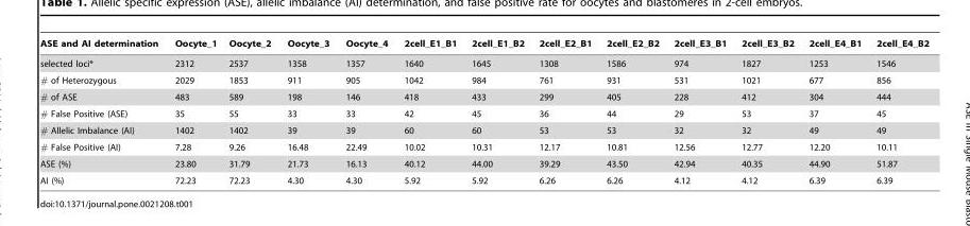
<table><thead><tr><td>ASE and AI determination</td><td>Oocyte_1</td><td>Oocyte_2</td><td>Oocyte_3</td><td>Oocyte_4</td><td>2cell_E1_B1</td><td>2cell_E1_B2</td><td>2cell_E2_B1</td><td>2cell_E2_B2</td><td>2cell_E3_B1</td><td>2cell_E3_B2</td><td>2cell_E4_B1</td><td>2cell_E4_B2</td></tr></thead><tbody><tr><td>selected loci*</td><td>2312</td><td>2537</td><td>1358</td><td>1357</td><td>1640</td><td>1645</td><td>1308</td><td>1586</td><td>974</td><td>1827</td><td>1253</td><td>1546</td></tr><tr><td># of Heterozygous</td><td>2029</td><td>1853</td><td>911</td><td>905</td><td>1042</td><td>984</td><td>761</td><td>931</td><td>531</td><td>1021</td><td>677</td><td>856</td></tr><tr><td># of ASE</td><td>483</td><td>589</td><td>198</td><td>146</td><td>418</td><td>433</td><td>299</td><td>405</td><td>228</td><td>412</td><td>304</td><td>444</td></tr><tr><td># False Positive (ASE)</td><td>35</td><td>55</td><td>33</td><td>33</td><td>42</td><td>45</td><td>36</td><td>44</td><td>29</td><td>53</td><td>37</td><td>45</td></tr><tr><td># Allelic Imbalance (AI)</td><td>1402</td><td>1402</td><td>39</td><td>39</td><td>60</td><td>60</td><td>53</td><td>53</td><td>32</td><td>32</td><td>49</td><td>49</td></tr><tr><td># False Positive (AI)</td><td>7.28</td><td>9.26</td><td>16.48</td><td>22.49</td><td>10.02</td><td>10.31</td><td>12.17</td><td>10.81</td><td>12.56</td><td>12.77</td><td>12.20</td><td>10.11</td></tr><tr><td>ASE (%)</td><td>23.80</td><td>31.79</td><td>21.73</td><td>16.13</td><td>40.12</td><td>44.00</td><td>39.29</td><td>43.50</td><td>42.94</td><td>40.35</td><td>44.90</td><td>51.87</td></tr><tr><td>AI (%)</td><td>72.23</td><td>72.23</td><td>4.30</td><td>4.30</td><td>5.92</td><td>5.92</td><td>6.26</td><td>6.26</td><td>4.12</td><td>4.12</td><td>6.39</td><td>6.39</td></tr></tbody></table>